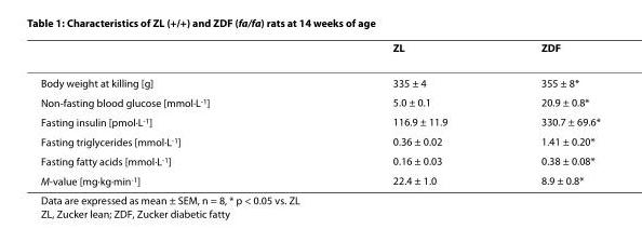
<table><thead><tr><td></td><td>ZL</td><td>ZDF</td></tr></thead><tbody><tr><td>Body weight at killing [g]</td><td>335 ± 4</td><td>355 ± 8*</td></tr><tr><td>Non-fasting blood glucose [mmol·L<sup>-1</sup>]</td><td>5.0 ± 0.1</td><td>20.9 ± 0.8*</td></tr><tr><td>Fasting insulin [pmol·L<sup>-1</sup>]</td><td>116.9 ± 11.9</td><td>330.7 ± 69.6*</td></tr><tr><td>Fasting triglycerides [mmol·L<sup>-1</sup>]</td><td>0.36 ± 0.02</td><td>1.41 ± 0.20*</td></tr><tr><td>Fasting fatty acids [mmol·L<sup>-1</sup>]</td><td>0.16 ± 0.03</td><td>0.38 ± 0.08*</td></tr><tr><td>M-value [mg·kg·min<sup>-1</sup>]</td><td>22.4 ± 1.0</td><td>8.9 ± 0.8*</td></tr></tbody></table>